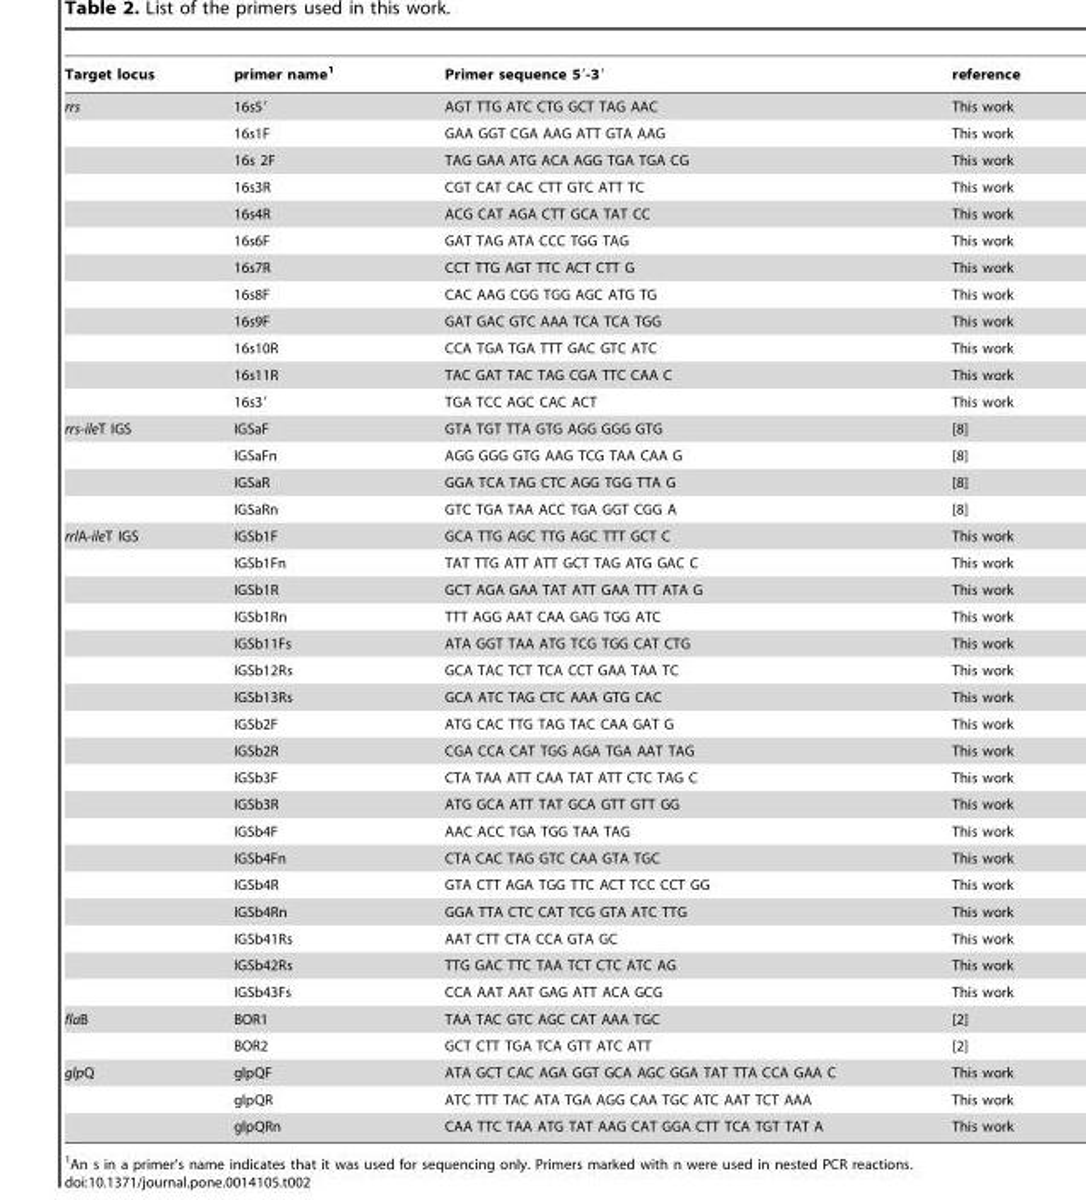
<table><thead><tr><td>Target locus</td><td>primer name<sup>1</sup></td><td>Primer sequence 5′-3′</td><td>reference</td></tr></thead><tbody><tr><td rowspan="12">rrs</td><td>16s5′</td><td>AGT TTG ATC CTG GCT TAG AAC</td><td>This work</td></tr><tr><td>16s1F</td><td>GAA GGT CGA AAG ATT GTA AAG</td><td>This work</td></tr><tr><td>16s 2F</td><td>TAG GAA ATG ACA AGG TGA TGA CG</td><td>This work</td></tr><tr><td>16s3R</td><td>CGT CAT CAC CTT GTC ATT TC</td><td>This work</td></tr><tr><td>16s4R</td><td>ACG CAT AGA CTT GCA TAT CC</td><td>This work</td></tr><tr><td>16s6F</td><td>GAT TAG ATA CCC TGG TAG</td><td>This work</td></tr><tr><td>16s7R</td><td>CCT TTG AGT TTC ACT CTT G</td><td>This work</td></tr><tr><td>16s8F</td><td>CAC AAG CGG TGG AGC ATG TG</td><td>This work</td></tr><tr><td>16s9F</td><td>GAT GAC GTC AAA TCA TCA TGG</td><td>This work</td></tr><tr><td>16s10R</td><td>CCA TGA TGA TTT GAC GTC ATC</td><td>This work</td></tr><tr><td>16s11R</td><td>TAC GAT TAC TAG CGA TTC CAA C</td><td>This work</td></tr><tr><td>16s3′</td><td>TGA TCC AGC CAC ACT</td><td>This work</td></tr><tr><td rowspan="4">rrs-ileT IGS</td><td>IGSaF</td><td>GTA TGT TTA GTG AGG GGG GTG</td><td>[8]</td></tr><tr><td>IGSaFn</td><td>AGG GGG GTG AAG TCG TAA CAA G</td><td>[8]</td></tr><tr><td>IGSaR</td><td>GGA TCA TAG CTC AGG TGG TTA G</td><td>[8]</td></tr><tr><td>IGSaRn</td><td>GTC TGA TAA ACC TGA GGT CGG A</td><td>[8]</td></tr><tr><td rowspan="18">rrlA-ileT IGS</td><td>IGSb1F</td><td>GCA TTG AGC TTG AGC TTT GCT C</td><td>This work</td></tr><tr><td>IGSb1Fn</td><td>TAT TTG ATT ATT GCT TAG ATG GAC C</td><td>This work</td></tr><tr><td>IGSb1R</td><td>GCT AGA GAA TAT ATT GAA TTT ATA G</td><td>This work</td></tr><tr><td>IGSb1Rn</td><td>TTT AGG AAT CAA GAG TGG ATC</td><td>This work</td></tr><tr><td>IGSb11Fs</td><td>ATA GGT TAA ATG TCG TGG CAT CTG</td><td>This work</td></tr><tr><td>IGSb12Rs</td><td>GCA TAC TCT TCA CCT GAA TAA TC</td><td>This work</td></tr><tr><td>IGSb13Rs</td><td>GCA ATC TAG CTC AAA GTG CAC</td><td>This work</td></tr><tr><td>IGSb2F</td><td>ATG CAC TTG TAG TAC CAA GAT G</td><td>This work</td></tr><tr><td>IGSb2R</td><td>CGA CCA CAT TGG AGA TGA AAT TAG</td><td>This work</td></tr><tr><td>IGSb3F</td><td>CTA TAA ATT CAA TAT ATT CTC TAG C</td><td>This work</td></tr><tr><td>IGSb3R</td><td>ATG GCA ATT TAT GCA GTT GTT GG</td><td>This work</td></tr><tr><td>IGSb4F</td><td>AAC ACC TGA TGG TAA TAG</td><td>This work</td></tr><tr><td>IGSb4Fn</td><td>CTA CAC TAG GTC CAA GTA TGC</td><td>This work</td></tr><tr><td>IGSb4R</td><td>GTA CTT AGA TGG TTC ACT TCC CCT GG</td><td>This work</td></tr><tr><td>IGSb4Rn</td><td>GGA TTA CTC CAT TCG GTA ATC TTG</td><td>This work</td></tr><tr><td>IGSb41Rs</td><td>AAT CTT CTA CCA GTA GC</td><td>This work</td></tr><tr><td>IGSb42Rs</td><td>TTG GAC TTC TAA TCT CTC ATC AG</td><td>This work</td></tr><tr><td>IGSb43Fs</td><td>CCA AAT AAT GAG ATT ACA GCG</td><td>This work</td></tr><tr><td rowspan="2">flaB</td><td>BOR1</td><td>TAA TAC GTC AGC CAT AAA TGC</td><td>[2]</td></tr><tr><td>BOR2</td><td>GCT CTT TGA TCA GTT ATC ATT</td><td>[2]</td></tr><tr><td rowspan="3">glpQ</td><td>glpQF</td><td>ATA GCT CAC AGA GGT GCA AGC GGA TAT TTA CCA GAA C</td><td>This work</td></tr><tr><td>glpQR</td><td>ATC TTT TAC ATA TGA AGG CAA TGC ATC AAT TCT AAA</td><td>This work</td></tr><tr><td>glpQRn</td><td>CAA TTC TAA ATG TAT AAG CAT GGA CTT TCA TGT TAT A</td><td>This work</td></tr></tbody></table>